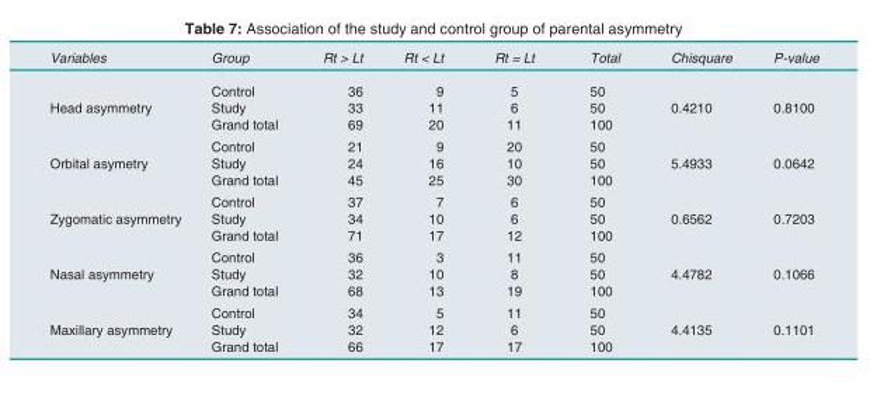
<table><tbody><tr><td rowspan="2">Variables</td><td>Group</td><td>Rt &gt; Lt</td><td>Rt &lt; Lt</td><td>Rt = Lt</td><td>Total</td><td>Chisquare</td><td>P-value</td></tr><tr><td>Control</td><td>36</td><td>9</td><td>5</td><td>50</td><td></td><td></td></tr><tr><td rowspan="3">Head asymmetry</td><td>Study</td><td>33</td><td>11</td><td>6</td><td>50</td><td>0.4210</td><td>0.8100</td></tr><tr><td>Grand total</td><td>69</td><td>20</td><td>11</td><td>100</td><td></td><td></td></tr><tr><td>Control</td><td>21</td><td>9</td><td>20</td><td>50</td><td></td><td></td></tr><tr><td rowspan="3">Orbital asymetry</td><td>Study</td><td>24</td><td>16</td><td>10</td><td>50</td><td>5.4933</td><td>0.0642</td></tr><tr><td>Grand total</td><td>45</td><td>25</td><td>30</td><td>100</td><td></td><td></td></tr><tr><td>Control</td><td>37</td><td>7</td><td>6</td><td>50</td><td></td><td></td></tr><tr><td rowspan="3">Zygomatic asymmetry</td><td>Study</td><td>34</td><td>10</td><td>6</td><td>50</td><td>0.6562</td><td>0.7203</td></tr><tr><td>Grand total</td><td>71</td><td>17</td><td>12</td><td>100</td><td></td><td></td></tr><tr><td>Control</td><td>36</td><td>3</td><td>11</td><td>50</td><td></td><td></td></tr><tr><td rowspan="3">Nasal asymmetry</td><td>Study</td><td>32</td><td>10</td><td>8</td><td>50</td><td>4.4782</td><td>0.1066</td></tr><tr><td>Grand total</td><td>68</td><td>13</td><td>19</td><td>100</td><td></td><td></td></tr><tr><td>Control</td><td>34</td><td>5</td><td>11</td><td>50</td><td></td><td></td></tr><tr><td rowspan="2">Maxillary asymmetry</td><td>Study</td><td>32</td><td>12</td><td>6</td><td>50</td><td>4.4135</td><td>0.1101</td></tr><tr><td>Grand total</td><td>66</td><td>17</td><td>17</td><td>100</td><td></td><td></td></tr></tbody></table>